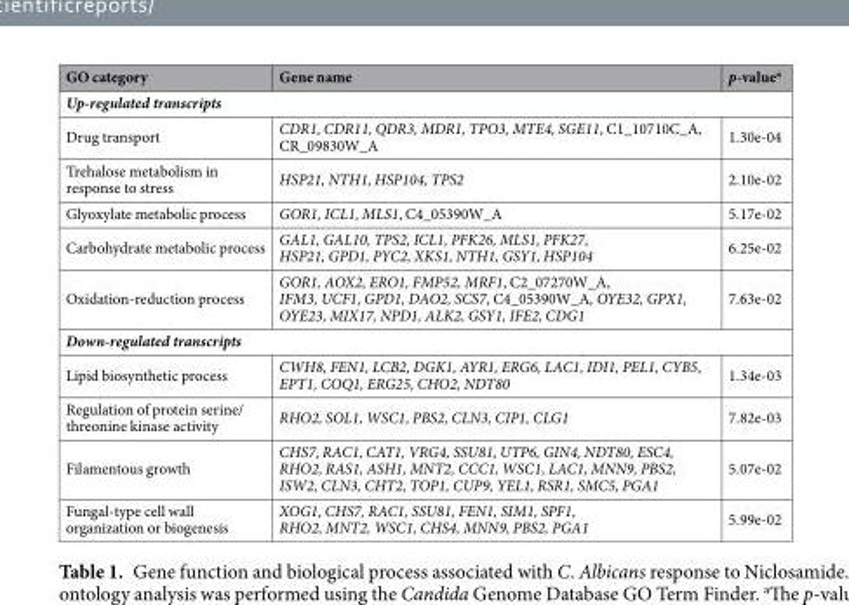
<table><thead><tr><td>GO category</td><td>Gene name</td><td>p-value<sup>a</sup></td></tr></thead><tbody><tr><td colspan="3">Up-regulated transcripts</td></tr><tr><td>Drug transport</td><td>CDR1, CDR11, QDR3, MDR1, TPO3, MTE4, SGE11, C1_10710C_A, CR_09830W_A</td><td>1.30e-04</td></tr><tr><td>Trehalose metabolism in response to stress</td><td>HSP21, NTH1, HSP104, TPS2</td><td>2.10e-02</td></tr><tr><td>Glyoxylate metabolic process</td><td>GOR1, ICL1, MLS1, C4_05390W_A</td><td>5.17e-02</td></tr><tr><td>Carbohydrate metabolic process</td><td>GAL1, GAL10, TPS2, ICL1, PFK26, MLS1, PFK27, HSP21, GPD1, PYC2, XKS1, NTH1, GSY1, HSP104</td><td>6.25e-02</td></tr><tr><td>Oxidation-reduction process</td><td>GOR1, AOX2, ERO1, FMP52, MRF1, C2_07270W_A, IFM3, UCF1, GPD1, DAO2, SCS7, C4_05390W_A, OYE32, GPX1, OYE23, MIX17, NPD1, ALK2, GSY1, IFE2, CDG1</td><td>7.63e-02</td></tr><tr><td colspan="3">Down-regulated transcripts</td></tr><tr><td>Lipid biosynthetic process</td><td>CWH8, FEN1, LCB2, DGK1, AYR1, ERG6, LAC1, IDI1, PEL1, CYB5, EPT1, COQ1, ERG25, CHO2, NDT80</td><td>1.34e-03</td></tr><tr><td>Regulation of protein serine/ threonine kinase activity</td><td>RHO2, SOL1, WSC1, PBS2, CLN3, CIP1, CLG1</td><td>7.82e-03</td></tr><tr><td>Filamentous growth</td><td>CHS7, RAC1, CAT1, VRG4, SSU81, UTP6, GIN4, NDT80, ESC4, RHO2, RAS1, ASH1, MNT2, CCC1, WSC1, LAC1, MNN9, PBS2, ISW2, CLN3, CHT2, TOP1, CUP9, YEL1, RSR1, SMC5, PGA1</td><td>5.07e-02</td></tr><tr><td>Fungal-type cell wall organization or biogenesis</td><td>XOG1, CHS7, RAC1, SSU81, FEN1, SIM1, SPF1, RHO2, MNT2, WSC1, CHS4, MNN9, PBS2, PGA1</td><td>5.99e-02</td></tr></tbody></table>